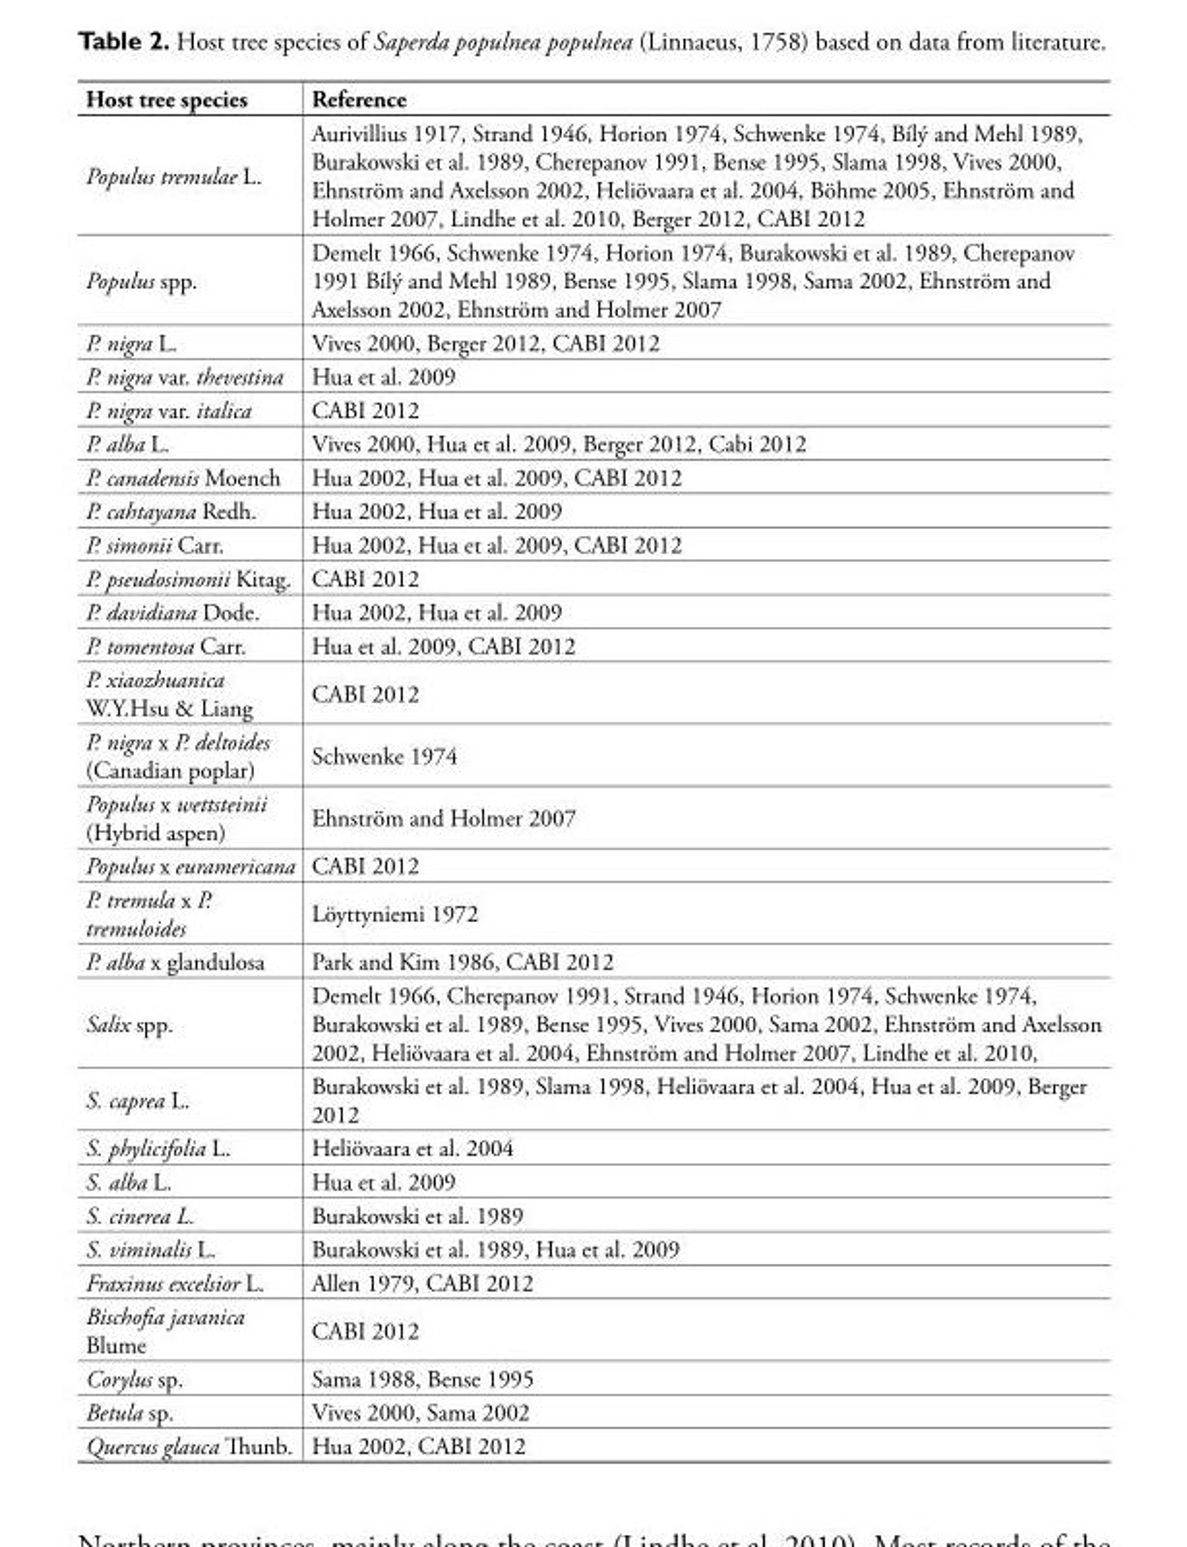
<table><thead><tr><td>Host tree species</td><td>Reference</td></tr></thead><tbody><tr><td>Populus tremulae L.</td><td>Aurivillius 1917, Strand 1946, Horion 1974, Schwenke 1974, Bílý and Mehl 1989, Burakowski et al. 1989, Cherepanov 1991, Bense 1995, Slama 1998, Vives 2000, Ehnström and Axelsson 2002, Heliövaara et al. 2004, Böhme 2005, Ehnström and Holmer 2007, Lindhe et al. 2010, Berger 2012, CABI 2012</td></tr><tr><td>Populus spp.</td><td>Demelt 1966, Schwenke 1974, Horion 1974, Burakowski et al. 1989, Cherepanov 1991 Bílý and Mehl 1989, Bense 1995, Slama 1998, Sama 2002, Ehnström and Axelsson 2002, Ehnström and Holmer 2007</td></tr><tr><td>P. nigra L.</td><td>Vives 2000, Berger 2012, CABI 2012</td></tr><tr><td>P. nigra var. thevestina</td><td>Hua et al. 2009</td></tr><tr><td>P. nigra var. italica</td><td>CABI 2012</td></tr><tr><td>P. alba L.</td><td>Vives 2000, Hua et al. 2009, Berger 2012, Cabi 2012</td></tr><tr><td>P. canadensis Moench</td><td>Hua 2002, Hua et al. 2009, CABI 2012</td></tr><tr><td>P. cahtayana Redh.</td><td>Hua 2002, Hua et al. 2009</td></tr><tr><td>P. simonii Carr.</td><td>Hua 2002, Hua et al. 2009, CABI 2012</td></tr><tr><td>P. pseudosimonii Kitag.</td><td>CABI 2012</td></tr><tr><td>P. davidiana Dode.</td><td>Hua 2002, Hua et al. 2009</td></tr><tr><td>P. tomentosa Carr.</td><td>Hua et al. 2009, CABI 2012</td></tr><tr><td>P. xiaozhuanica W.Y.Hsu &amp; Liang</td><td>CABI 2012</td></tr><tr><td>P. nigra x P. deltoides (Canadian poplar)</td><td>Schwenke 1974</td></tr><tr><td>Populus x wettsteinii (Hybrid aspen)</td><td>Ehnström and Holmer 2007</td></tr><tr><td>Populus x euramericana</td><td>CABI 2012</td></tr><tr><td>P. tremula x P. tremuloides</td><td>Löyttyniemi 1972</td></tr><tr><td>P. alba x glandulosa</td><td>Park and Kim 1986, CABI 2012</td></tr><tr><td>Salix spp.</td><td>Demelt 1966, Cherepanov 1991, Strand 1946, Horion 1974, Schwenke 1974, Burakowski et al. 1989, Bense 1995, Vives 2000, Sama 2002, Ehnström and Axelsson 2002, Heliövaara et al. 2004, Ehnström and Holmer 2007, Lindhe et al. 2010,</td></tr><tr><td>S. caprea L.</td><td>Burakowski et al. 1989, Slama 1998, Heliövaara et al. 2004, Hua et al. 2009, Berger 2012</td></tr><tr><td>S. phylicifolia L.</td><td>Heliövaara et al. 2004</td></tr><tr><td>S. alba L.</td><td>Hua et al. 2009</td></tr><tr><td>S. cinerea L.</td><td>Burakowski et al. 1989</td></tr><tr><td>S. viminalis L.</td><td>Burakowski et al. 1989, Hua et al. 2009</td></tr><tr><td>Fraxinus excelsior L.</td><td>Allen 1979, CABI 2012</td></tr><tr><td>Bischofia javanica Blume</td><td>CABI 2012</td></tr><tr><td>Corylus sp.</td><td>Sama 1988, Bense 1995</td></tr><tr><td>Betula sp.</td><td>Vives 2000, Sama 2002</td></tr><tr><td>Quercus glauca Thunb.</td><td>Hua 2002, CABI 2012</td></tr></tbody></table>